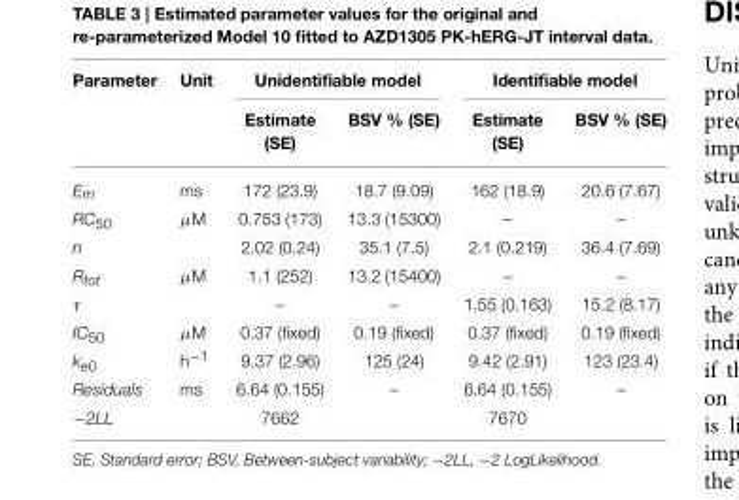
<table><thead><tr><td rowspan="2">Parameter</td><td rowspan="2">Unit</td><td colspan="2">Unidentifiable model</td><td colspan="2">Identifiable model</td></tr><tr><td>Estimate (SE)</td><td>BSV % (SE)</td><td>Estimate (SE)</td><td>BSV % (SE)</td></tr></thead><tbody><tr><td>E<sub>m</sub></td><td>ms</td><td>172 (23.9)</td><td>18.7 (9.09)</td><td>162 (18.9)</td><td>20.6 (7.67)</td></tr><tr><td>RC<sub>50</sub></td><td>µM</td><td>0.753 (173)</td><td>13.3 (15300)</td><td>–</td><td>–</td></tr><tr><td>n</td><td></td><td>2.02 (0.24)</td><td>35.1 (7.5)</td><td>2.1 (0.219)</td><td>36.4 (7.69)</td></tr><tr><td>R<sub>tot</sub></td><td>µM</td><td>1.1 (252)</td><td>13.2 (15400)</td><td>–</td><td>–</td></tr><tr><td>τ</td><td></td><td>–</td><td>–</td><td>1.55 (0.163)</td><td>15.2 (8.17)</td></tr><tr><td>IC<sub>50</sub></td><td>µM</td><td>0.37 (fixed)</td><td>0.19 (fixed)</td><td>0.37 (fixed)</td><td>0.19 (fixed)</td></tr><tr><td>k<sub>e0</sub></td><td>h<sup>−1</sup></td><td>9.37 (2.96)</td><td>125 (24)</td><td>9.42 (2.91)</td><td>123 (23.4)</td></tr><tr><td>Residuals</td><td>ms</td><td>6.64 (0.155)</td><td>–</td><td>6.64 (0.155)</td><td>–</td></tr><tr><td>−2LL</td><td></td><td>7662</td><td></td><td>7670</td><td></td></tr></tbody></table>